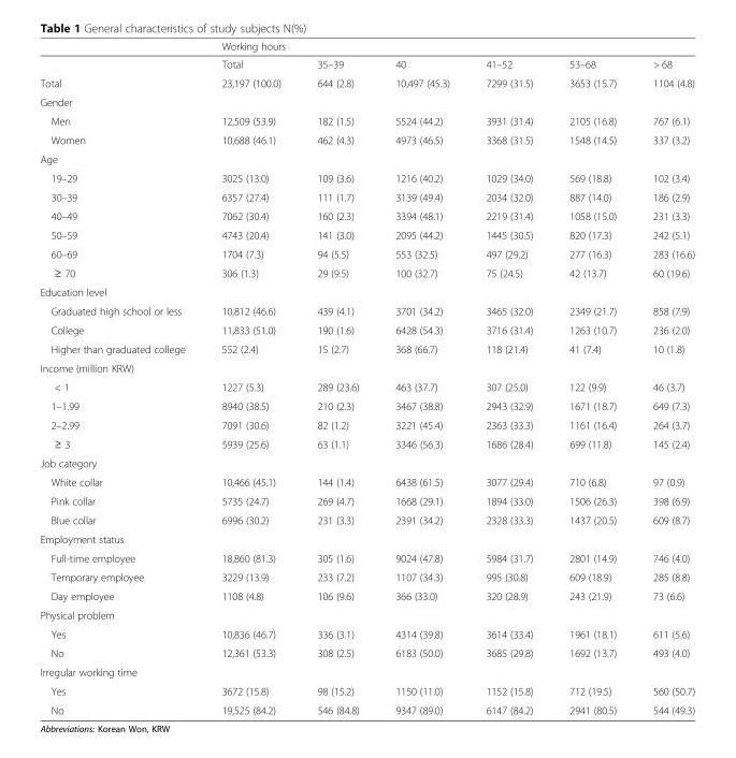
<table><thead><tr><td rowspan="2"></td><td colspan="6">Working hours</td></tr><tr><td>Total</td><td>35–39</td><td>40</td><td>41–52</td><td>53–68</td><td>&gt; 68</td></tr></thead><tbody><tr><td>Total</td><td>23,197 (100.0)</td><td>644 (2.8)</td><td>10,497 (45.3)</td><td>7299 (31.5)</td><td>3653 (15.7)</td><td>1104 (4.8)</td></tr><tr><td colspan="7">Gender</td></tr><tr><td>Men</td><td>12,509 (53.9)</td><td>182 (1.5)</td><td>5524 (44.2)</td><td>3931 (31.4)</td><td>2105 (16.8)</td><td>767 (6.1)</td></tr><tr><td>Women</td><td>10,688 (46.1)</td><td>462 (4.3)</td><td>4973 (46.5)</td><td>3368 (31.5)</td><td>1548 (14.5)</td><td>337 (3.2)</td></tr><tr><td colspan="7">Age</td></tr><tr><td>19–29</td><td>3025 (13.0)</td><td>109 (3.6)</td><td>1216 (40.2)</td><td>1029 (34.0)</td><td>569 (18.8)</td><td>102 (3.4)</td></tr><tr><td>30–39</td><td>6357 (27.4)</td><td>111 (1.7)</td><td>3139 (49.4)</td><td>2034 (32.0)</td><td>887 (14.0)</td><td>186 (2.9)</td></tr><tr><td>40–49</td><td>7062 (30.4)</td><td>160 (2.3)</td><td>3394 (48.1)</td><td>2219 (31.4)</td><td>1058 (15.0)</td><td>231 (3.3)</td></tr><tr><td>50–59</td><td>4743 (20.4)</td><td>141 (3.0)</td><td>2095 (44.2)</td><td>1445 (30.5)</td><td>820 (17.3)</td><td>242 (5.1)</td></tr><tr><td>60–69</td><td>1704 (7.3)</td><td>94 (5.5)</td><td>553 (32.5)</td><td>497 (29.2)</td><td>277 (16.3)</td><td>283 (16.6)</td></tr><tr><td>≥ 70</td><td>306 (1.3)</td><td>29 (9.5)</td><td>100 (32.7)</td><td>75 (24.5)</td><td>42 (13.7)</td><td>60 (19.6)</td></tr><tr><td colspan="7">Education level</td></tr><tr><td>Graduated high school or less</td><td>10,812 (46.6)</td><td>439 (4.1)</td><td>3701 (34.2)</td><td>3465 (32.0)</td><td>2349 (21.7)</td><td>858 (7.9)</td></tr><tr><td>College</td><td>11,833 (51.0)</td><td>190 (1.6)</td><td>6428 (54.3)</td><td>3716 (31.4)</td><td>1263 (10.7)</td><td>236 (2.0)</td></tr><tr><td>Higher than graduated college</td><td>552 (2.4)</td><td>15 (2.7)</td><td>368 (66.7)</td><td>118 (21.4)</td><td>41 (7.4)</td><td>10 (1.8)</td></tr><tr><td colspan="7">Income (million KRW)</td></tr><tr><td>&lt; 1</td><td>1227 (5.3)</td><td>289 (23.6)</td><td>463 (37.7)</td><td>307 (25.0)</td><td>122 (9.9)</td><td>46 (3.7)</td></tr><tr><td>1–1.99</td><td>8940 (38.5)</td><td>210 (2.3)</td><td>3467 (38.8)</td><td>2943 (32.9)</td><td>1671 (18.7)</td><td>649 (7.3)</td></tr><tr><td>2–2.99</td><td>7091 (30.6)</td><td>82 (1.2)</td><td>3221 (45.4)</td><td>2363 (33.3)</td><td>1161 (16.4)</td><td>264 (3.7)</td></tr><tr><td>≥ 3</td><td>5939 (25.6)</td><td>63 (1.1)</td><td>3346 (56.3)</td><td>1686 (28.4)</td><td>699 (11.8)</td><td>145 (2.4)</td></tr><tr><td colspan="7">Job category</td></tr><tr><td>White collar</td><td>10,466 (45.1)</td><td>144 (1.4)</td><td>6438 (61.5)</td><td>3077 (29.4)</td><td>710 (6.8)</td><td>97 (0.9)</td></tr><tr><td>Pink collar</td><td>5735 (24.7)</td><td>269 (4.7)</td><td>1668 (29.1)</td><td>1894 (33.0)</td><td>1506 (26.3)</td><td>398 (6.9)</td></tr><tr><td>Blue collar</td><td>6996 (30.2)</td><td>231 (3.3)</td><td>2391 (34.2)</td><td>2328 (33.3)</td><td>1437 (20.5)</td><td>609 (8.7)</td></tr><tr><td colspan="7">Employment status</td></tr><tr><td>Full-time employee</td><td>18,860 (81.3)</td><td>305 (1.6)</td><td>9024 (47.8)</td><td>5984 (31.7)</td><td>2801 (14.9)</td><td>746 (4.0)</td></tr><tr><td>Temporary employee</td><td>3229 (13.9)</td><td>233 (7.2)</td><td>1107 (34.3)</td><td>995 (30.8)</td><td>609 (18.9)</td><td>285 (8.8)</td></tr><tr><td>Day employee</td><td>1108 (4.8)</td><td>106 (9.6)</td><td>366 (33.0)</td><td>320 (28.9)</td><td>243 (21.9)</td><td>73 (6.6)</td></tr><tr><td colspan="7">Physical problem</td></tr><tr><td>Yes</td><td>10,836 (46.7)</td><td>336 (3.1)</td><td>4314 (39.8)</td><td>3614 (33.4)</td><td>1961 (18.1)</td><td>611 (5.6)</td></tr><tr><td>No</td><td>12,361 (53.3)</td><td>308 (2.5)</td><td>6183 (50.0)</td><td>3685 (29.8)</td><td>1692 (13.7)</td><td>493 (4.0)</td></tr><tr><td colspan="7">Irregular working time</td></tr><tr><td>Yes</td><td>3672 (15.8)</td><td>98 (15.2)</td><td>1150 (11.0)</td><td>1152 (15.8)</td><td>712 (19.5)</td><td>560 (50.7)</td></tr><tr><td>No</td><td>19,525 (84.2)</td><td>546 (84.8)</td><td>9347 (89.0)</td><td>6147 (84.2)</td><td>2941 (80.5)</td><td>544 (49.3)</td></tr></tbody></table>